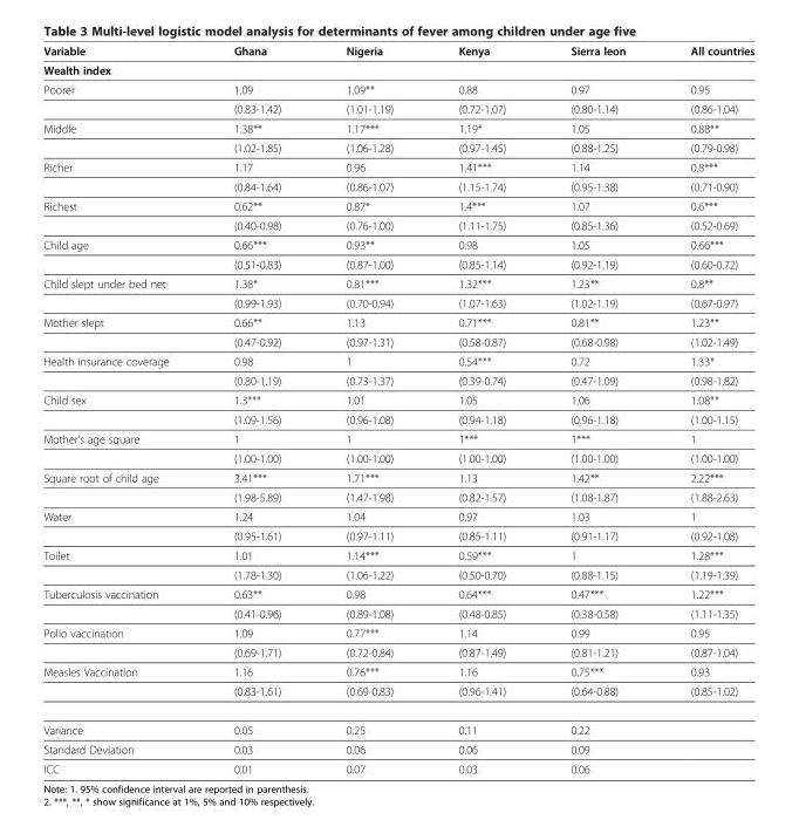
<table><thead><tr><td>Variable</td><td>Ghana</td><td>Nigeria</td><td>Kenya</td><td>Sierra leon</td><td>All countries</td></tr></thead><tbody><tr><td colspan="6">Wealth index</td></tr><tr><td rowspan="2">Poorer</td><td>1.09</td><td>1.09**</td><td>0.88</td><td>0.97</td><td>0.95</td></tr><tr><td>(0.83-1.42)</td><td>(1.01-1.19)</td><td>(0.72-1.07)</td><td>(0.80-1.14)</td><td>(0.86-1.04)</td></tr><tr><td rowspan="2">Middle</td><td>1.38**</td><td>1.17***</td><td>1.19*</td><td>1.05</td><td>0.88**</td></tr><tr><td>(1.02-1.85)</td><td>(1.06-1.28)</td><td>(0.97-1.45)</td><td>(0.88-1.25)</td><td>(0.79-0.98)</td></tr><tr><td rowspan="2">Richer</td><td>1.17</td><td>0.96</td><td>1.41***</td><td>1.14</td><td>0.8***</td></tr><tr><td>(0.84-1.64)</td><td>(0.86-1.07)</td><td>(1.15-1.74)</td><td>(0.95-1.38)</td><td>(0.71-0.90)</td></tr><tr><td rowspan="2">Richest</td><td>0.62**</td><td>0.87*</td><td>1.4***</td><td>1.07</td><td>0.6***</td></tr><tr><td>(0.40-0.98)</td><td>(0.76-1.00)</td><td>(1.11-1.75)</td><td>(0.85-1.36)</td><td>(0.52-0.69)</td></tr><tr><td rowspan="2">Child age</td><td>0.66***</td><td>0.93**</td><td>0.98</td><td>1.05</td><td>0.66***</td></tr><tr><td>(0.51-0.83)</td><td>(0.87-1.00)</td><td>(0.85-1.14)</td><td>(0.92-1.19)</td><td>(0.60-0.72)</td></tr><tr><td rowspan="2">Child slept under bed net</td><td>1.38*</td><td>0.81***</td><td>1.32***</td><td>1.23**</td><td>0.8**</td></tr><tr><td>(0.99-1.93)</td><td>(0.70-0.94)</td><td>(1.07-1.63)</td><td>(1.02-1.19)</td><td>(0.67-0.97)</td></tr><tr><td rowspan="2">Mother slept</td><td>0.66**</td><td>1.13</td><td>0.71***</td><td>0.81**</td><td>1.23**</td></tr><tr><td>(0.47-0.92)</td><td>(0.97-1.31)</td><td>(0.58-0.87)</td><td>(0.68-0.98)</td><td>(1.02-1.49)</td></tr><tr><td rowspan="2">Health insurance coverage</td><td>0.98</td><td>1</td><td>0.54***</td><td>0.72</td><td>1.33*</td></tr><tr><td>(0.80-1.19)</td><td>(0.73-1.37)</td><td>(0.39-0.74)</td><td>(0.47-1.09)</td><td>(0.98-1.82)</td></tr><tr><td rowspan="2">Child sex</td><td>1.3***</td><td>1.01</td><td>1.05</td><td>1.06</td><td>1.08**</td></tr><tr><td>(1.09-1.56)</td><td>(0.96-1.08)</td><td>(0.94-1.18)</td><td>(0.96-1.18)</td><td>(1.00-1.15)</td></tr><tr><td rowspan="2">Mother’s age square</td><td>1</td><td>1</td><td>1***</td><td>1***</td><td>1</td></tr><tr><td>(1.00-1.00)</td><td>(1.00-1.00)</td><td>(1.00-1.00)</td><td>(1.00-1.00)</td><td>(1.00-1.00)</td></tr><tr><td rowspan="2">Square root of child age</td><td>3.41***</td><td>1.71***</td><td>1.13</td><td>1.42**</td><td>2.22***</td></tr><tr><td>(1.98-5.89)</td><td>(1.47-1.98)</td><td>(0.82-1.57)</td><td>(1.08-1.87)</td><td>(1.88-2.63)</td></tr><tr><td rowspan="2">Water</td><td>1.24</td><td>1.04</td><td>0.97</td><td>1.03</td><td>1</td></tr><tr><td>(0.95-1.61)</td><td>(0.97-1.11)</td><td>(0.85-1.11)</td><td>(0.91-1.17)</td><td>(0.92-1.08)</td></tr><tr><td rowspan="2">Toilet</td><td>1.01</td><td>1.14***</td><td>0.59***</td><td>1</td><td>1.28***</td></tr><tr><td>(1.78-1.30)</td><td>(1.06-1.22)</td><td>(0.50-0.70)</td><td>(0.88-1.15)</td><td>(1.19-1.39)</td></tr><tr><td rowspan="2">Tuberculosis vaccination</td><td>0.63**</td><td>0.98</td><td>0.64***</td><td>0.47***</td><td>1.22***</td></tr><tr><td>(0.41-0.96)</td><td>(0.89-1.08)</td><td>(0.48-0.85)</td><td>(0.38-0.58)</td><td>(1.11-1.35)</td></tr><tr><td rowspan="2">Polio vaccination</td><td>1.09</td><td>0.77***</td><td>1.14</td><td>0.99</td><td>0.95</td></tr><tr><td>(0.69-1.71)</td><td>(0.72-0.84)</td><td>(0.87-1.49)</td><td>(0.81-1.21)</td><td>(0.87-1.04)</td></tr><tr><td rowspan="2">Measles Vaccination</td><td>1.16</td><td>0.76***</td><td>1.16</td><td>0.75***</td><td>0.93</td></tr><tr><td>(0.83-1.61)</td><td>(0.69-0.83)</td><td>(0.96-1.41)</td><td>(0.64-0.88)</td><td>(0.85-1.02)</td></tr><tr><td>Variance</td><td>0.05</td><td>0.25</td><td>0.11</td><td>0.22</td><td></td></tr><tr><td>Standard Deviation</td><td>0.03</td><td>0.06</td><td>0.06</td><td>0.09</td><td></td></tr><tr><td>ICC</td><td>0.01</td><td>0.07</td><td>0.03</td><td>0.06</td><td></td></tr></tbody></table>